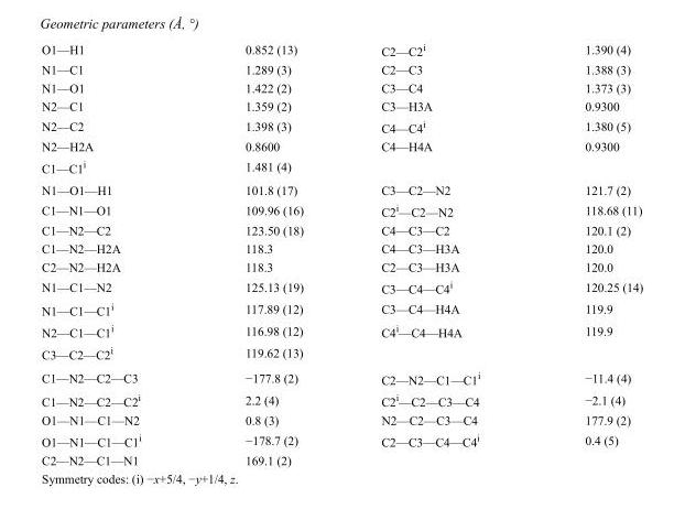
<table><tbody><tr><td>O1—H1</td><td>0.852 (13)</td><td>C2—C2<sup>i</sup></td><td>1.390 (4)</td></tr><tr><td>N1—C1</td><td>1.289 (3)</td><td>C2—C3</td><td>1.388 (3)</td></tr><tr><td>N1—O1</td><td>1.422 (2)</td><td>C3—C4</td><td>1.373 (3)</td></tr><tr><td>N2—C1</td><td>1.359 (2)</td><td>C3—H3A</td><td>0.9300</td></tr><tr><td>N2—C2</td><td>1.398 (3)</td><td>C4—C4<sup>i</sup></td><td>1.380 (5)</td></tr><tr><td>N2—H2A</td><td>0.8600</td><td>C4—H4A</td><td>0.9300</td></tr><tr><td>C1—C1<sup>i</sup></td><td>1.481 (4)</td><td></td><td></td></tr><tr><td>N1—O1—H1</td><td>101.8 (17)</td><td>C3—C2—N2</td><td>121.7 (2)</td></tr><tr><td>C1—N1—O1</td><td>109.96 (16)</td><td>C2<sup>i</sup>—C2—N2</td><td>118.68 (11)</td></tr><tr><td>C1—N2—C2</td><td>123.50 (18)</td><td>C4—C3—C2</td><td>120.1 (2)</td></tr><tr><td>C1—N2—H2A</td><td>118.3</td><td>C4—C3—H3A</td><td>120.0</td></tr><tr><td>C2—N2—H2A</td><td>118.3</td><td>C2—C3—H3A</td><td>120.0</td></tr><tr><td>N1—C1—N2</td><td>125.13 (19)</td><td>C3—C4—C4<sup>i</sup></td><td>120.25 (14)</td></tr><tr><td>N1—C1—C1<sup>i</sup></td><td>117.89 (12)</td><td>C3—C4—H4A</td><td>119.9</td></tr><tr><td>N2—C1—C1<sup>i</sup></td><td>116.98 (12)</td><td>C4<sup>i</sup>—C4—H4A</td><td>119.9</td></tr><tr><td>C3—C2—C2<sup>i</sup></td><td>119.62 (13)</td><td></td><td></td></tr><tr><td>C1—N2—C2—C3</td><td>−177.8 (2)</td><td>C2—N2—C1—C1<sup>i</sup></td><td>−11.4 (4)</td></tr><tr><td>C1—N2—C2—C2<sup>i</sup></td><td>2.2 (4)</td><td>C2<sup>i</sup>—C2—C3—C4</td><td>−2.1 (4)</td></tr><tr><td>O1—N1—C1—N2</td><td>0.8 (3)</td><td>N2—C2—C3—C4</td><td>177.9 (2)</td></tr><tr><td>O1—N1—C1—C1<sup>i</sup></td><td>−178.7 (2)</td><td>C2—C3—C4—C4<sup>i</sup></td><td>0.4 (5)</td></tr><tr><td>C2—N2—C1—N1</td><td>169.1 (2)</td><td></td><td></td></tr></tbody></table>